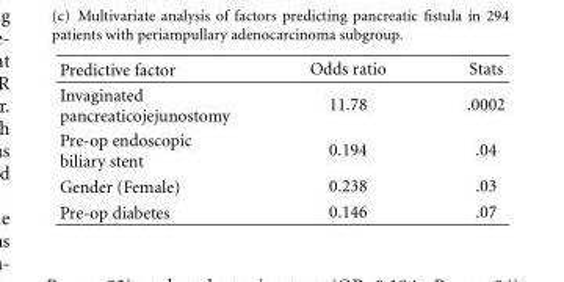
<table><thead><tr><td>Predictive factor</td><td>Odds ratio</td><td>Stats</td></tr></thead><tbody><tr><td>Invaginated pancreaticojejunostomy</td><td>11.78</td><td>.0002</td></tr><tr><td>Pre-op endoscopic biliary stent</td><td>0.194</td><td>.04</td></tr><tr><td>Gender (Female)</td><td>0.238</td><td>.03</td></tr><tr><td>Pre-op diabetes</td><td>0.146</td><td>.07</td></tr></tbody></table>